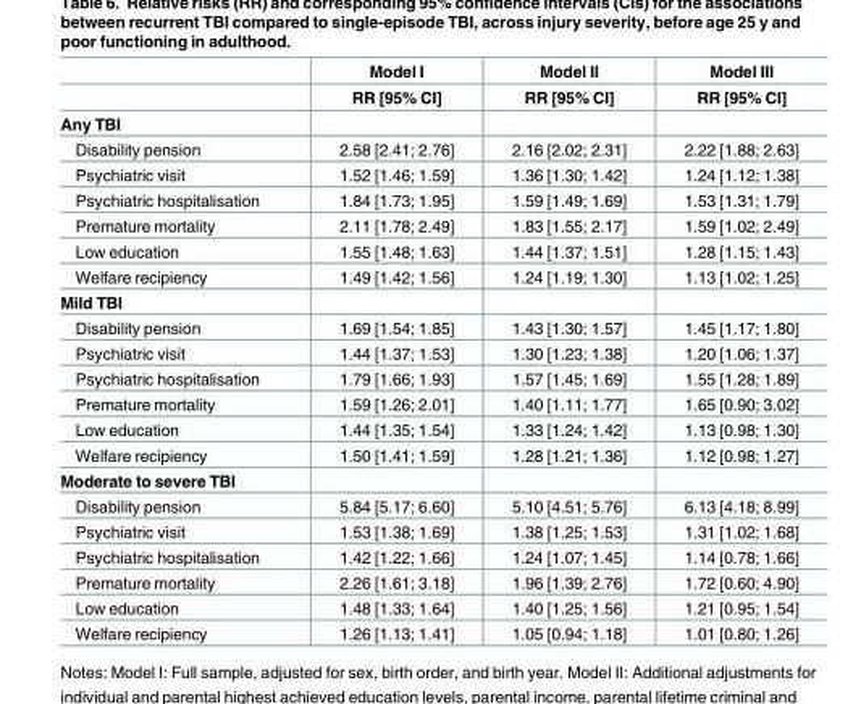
<table><thead><tr><td rowspan="2"></td><td rowspan="2">Model I RR [95% CI]</td><td rowspan="2">Model II RR [95% CI]</td><td rowspan="2">Model III RR [95% CI]</td></tr><tr></tr></thead><tbody><tr><td colspan="4">Any TBI</td></tr><tr><td>Disability pension</td><td>2.58 [2.41; 2.76]</td><td>2.16 [2.02; 2.31]</td><td>2.22 [1.88; 2.63]</td></tr><tr><td>Psychiatric visit</td><td>1.52 [1.46; 1.59]</td><td>1.36 [1.30; 1.42]</td><td>1.24 [1.12; 1.38]</td></tr><tr><td>Psychiatric hospitalisation</td><td>1.84 [1.73; 1.95]</td><td>1.59 [1.49; 1.69]</td><td>1.53 [1.31; 1.79]</td></tr><tr><td>Premature mortality</td><td>2.11 [1.78; 2.49]</td><td>1.83 [1.55; 2.17]</td><td>1.59 [1.02; 2.49]</td></tr><tr><td>Low education</td><td>1.55 [1.48; 1.63]</td><td>1.44 [1.37; 1.51]</td><td>1.28 [1.15; 1.43]</td></tr><tr><td>Welfare recipiency</td><td>1.49 [1.42; 1.56]</td><td>1.24 [1.19; 1.30]</td><td>1.13 [1.02; 1.25]</td></tr><tr><td colspan="4">Mild TBI</td></tr><tr><td>Disability pension</td><td>1.69 [1.54; 1.85]</td><td>1.43 [1.30; 1.57]</td><td>1.45 [1.17; 1.80]</td></tr><tr><td>Psychiatric visit</td><td>1.44 [1.37; 1.53]</td><td>1.30 [1.23; 1.38]</td><td>1.20 [1.06; 1.37]</td></tr><tr><td>Psychiatric hospitalisation</td><td>1.79 [1.66; 1.93]</td><td>1.57 [1.45; 1.69]</td><td>1.55 [1.28; 1.89]</td></tr><tr><td>Premature mortality</td><td>1.59 [1.26; 2.01]</td><td>1.40 [1.11; 1.77]</td><td>1.65 [0.90; 3.02]</td></tr><tr><td>Low education</td><td>1.44 [1.35; 1.54]</td><td>1.33 [1.24; 1.42]</td><td>1.13 [0.98; 1.30]</td></tr><tr><td>Welfare recipiency</td><td>1.50 [1.41; 1.59]</td><td>1.28 [1.21; 1.36]</td><td>1.12 [0.98; 1.27]</td></tr><tr><td colspan="4">Moderate to severe TBI</td></tr><tr><td>Disability pension</td><td>5.84 [5.17; 6.60]</td><td>5.10 [4.51; 5.76]</td><td>6.13 [4.18; 8.99]</td></tr><tr><td>Psychiatric visit</td><td>1.53 [1.38; 1.69]</td><td>1.38 [1.25; 1.53]</td><td>1.31 [1.02; 1.68]</td></tr><tr><td>Psychiatric hospitalisation</td><td>1.42 [1.22; 1.66]</td><td>1.24 [1.07; 1.45]</td><td>1.14 [0.78; 1.66]</td></tr><tr><td>Premature mortality</td><td>2.26 [1.61; 3.18]</td><td>1.96 [1.39; 2.76]</td><td>1.72 [0.60; 4.90]</td></tr><tr><td>Low education</td><td>1.48 [1.33; 1.64]</td><td>1.40 [1.25; 1.56]</td><td>1.21 [0.95; 1.54]</td></tr><tr><td>Welfare recipiency</td><td>1.26 [1.13; 1.41]</td><td>1.05 [0.94; 1.18]</td><td>1.01 [0.80; 1.26]</td></tr></tbody></table>